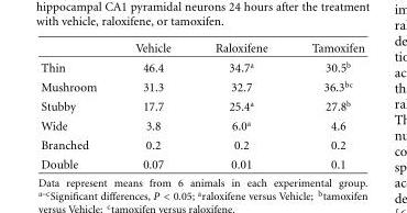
<table><thead><tr><td></td><td>Vehicle</td><td>Raloxifene</td><td>Tamoxifen</td></tr></thead><tbody><tr><td>Thin</td><td>46.4</td><td>34.7<sup>a</sup></td><td>30.5<sup>b</sup></td></tr><tr><td>Mushroom</td><td>31.3</td><td>32.7</td><td>36.3<sup>bc</sup></td></tr><tr><td>Stubby</td><td>17.7</td><td>25.4<sup>a</sup></td><td>27.8<sup>b</sup></td></tr><tr><td>Wide</td><td>3.8</td><td>6.0<sup>a</sup></td><td>4.6</td></tr><tr><td>Branched</td><td>0.2</td><td>0.2</td><td>0.2</td></tr><tr><td>Double</td><td>0.07</td><td>0.01</td><td>0.1</td></tr></tbody></table>